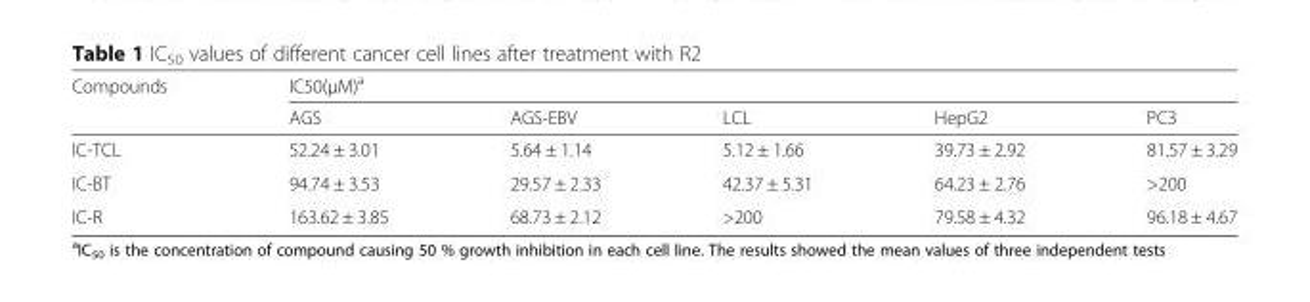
<table><thead><tr><td rowspan="2">Compounds</td><td colspan="5">IC50(μM)<sup>a</sup></td></tr><tr><td>AGS</td><td>AGS-EBV</td><td>LCL</td><td>HepG2</td><td>PC3</td></tr></thead><tbody><tr><td>IC-TCL</td><td>52.24 ± 3.01</td><td>5.64 ± 1.14</td><td>5.12 ± 1.66</td><td>39.73 ± 2.92</td><td>81.57 ± 3.29</td></tr><tr><td>IC-BT</td><td>94.74 ± 3.53</td><td>29.57 ± 2.33</td><td>42.37 ± 5.31</td><td>64.23 ± 2.76</td><td>&gt;200</td></tr><tr><td>IC-R</td><td>163.62 ± 3.85</td><td>68.73 ± 2.12</td><td>&gt;200</td><td>79.58 ± 4.32</td><td>96.18 ± 4.67</td></tr></tbody></table>